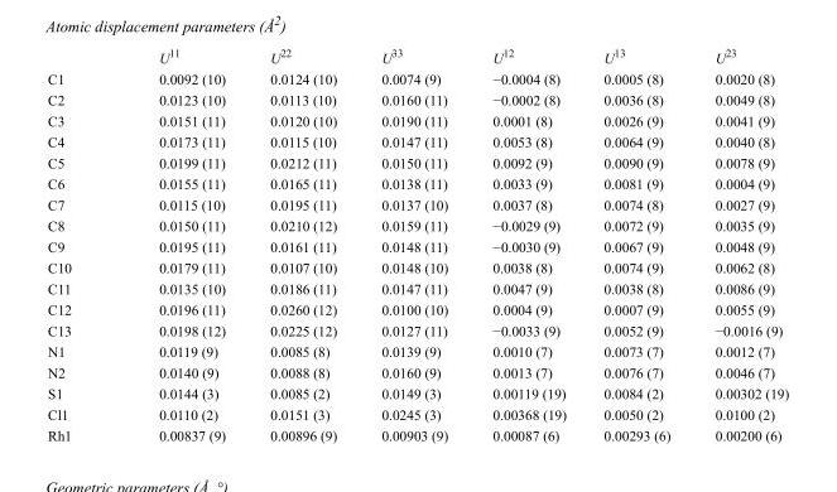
<table><thead><tr><td></td><td>U<sup>11</sup></td><td>U<sup>22</sup></td><td>U<sup>33</sup></td><td>U<sup>12</sup></td><td>U<sup>13</sup></td><td>U<sup>23</sup></td></tr></thead><tbody><tr><td>C1</td><td>0.0092 (10)</td><td>0.0124 (10)</td><td>0.0074 (9)</td><td>−0.0004 (8)</td><td>0.0005 (8)</td><td>0.0020 (8)</td></tr><tr><td>C2</td><td>0.0123 (10)</td><td>0.0113 (10)</td><td>0.0160 (11)</td><td>−0.0002 (8)</td><td>0.0036 (8)</td><td>0.0049 (8)</td></tr><tr><td>C3</td><td>0.0151 (11)</td><td>0.0120 (10)</td><td>0.0190 (11)</td><td>0.0001 (8)</td><td>0.0026 (9)</td><td>0.0041 (9)</td></tr><tr><td>C4</td><td>0.0173 (11)</td><td>0.0115 (10)</td><td>0.0147 (11)</td><td>0.0053 (8)</td><td>0.0064 (9)</td><td>0.0040 (8)</td></tr><tr><td>C5</td><td>0.0199 (11)</td><td>0.0212 (11)</td><td>0.0150 (11)</td><td>0.0092 (9)</td><td>0.0090 (9)</td><td>0.0078 (9)</td></tr><tr><td>C6</td><td>0.0155 (11)</td><td>0.0165 (11)</td><td>0.0138 (11)</td><td>0.0033 (9)</td><td>0.0081 (9)</td><td>0.0004 (9)</td></tr><tr><td>C7</td><td>0.0115 (10)</td><td>0.0195 (11)</td><td>0.0137 (10)</td><td>0.0037 (8)</td><td>0.0074 (8)</td><td>0.0027 (9)</td></tr><tr><td>C8</td><td>0.0150 (11)</td><td>0.0210 (12)</td><td>0.0159 (11)</td><td>−0.0029 (9)</td><td>0.0072 (9)</td><td>0.0035 (9)</td></tr><tr><td>C9</td><td>0.0195 (11)</td><td>0.0161 (11)</td><td>0.0148 (11)</td><td>−0.0030 (9)</td><td>0.0067 (9)</td><td>0.0048 (9)</td></tr><tr><td>C10</td><td>0.0179 (11)</td><td>0.0107 (10)</td><td>0.0148 (10)</td><td>0.0038 (8)</td><td>0.0074 (9)</td><td>0.0062 (8)</td></tr><tr><td>C11</td><td>0.0135 (10)</td><td>0.0186 (11)</td><td>0.0147 (11)</td><td>0.0047 (9)</td><td>0.0038 (8)</td><td>0.0086 (9)</td></tr><tr><td>C12</td><td>0.0196 (11)</td><td>0.0260 (12)</td><td>0.0100 (10)</td><td>0.0004 (9)</td><td>0.0007 (9)</td><td>0.0055 (9)</td></tr><tr><td>C13</td><td>0.0198 (12)</td><td>0.0225 (12)</td><td>0.0127 (11)</td><td>−0.0033 (9)</td><td>0.0052 (9)</td><td>−0.0016 (9)</td></tr><tr><td>N1</td><td>0.0119 (9)</td><td>0.0085 (8)</td><td>0.0139 (9)</td><td>0.0010 (7)</td><td>0.0073 (7)</td><td>0.0012 (7)</td></tr><tr><td>N2</td><td>0.0140 (9)</td><td>0.0088 (8)</td><td>0.0160 (9)</td><td>0.0013 (7)</td><td>0.0076 (7)</td><td>0.0046 (7)</td></tr><tr><td>S1</td><td>0.0144 (3)</td><td>0.0085 (2)</td><td>0.0149 (3)</td><td>0.00119 (19)</td><td>0.0084 (2)</td><td>0.00302 (19)</td></tr><tr><td>Cl1</td><td>0.0110 (2)</td><td>0.0151 (3)</td><td>0.0245 (3)</td><td>0.00368 (19)</td><td>0.0050 (2)</td><td>0.0100 (2)</td></tr><tr><td>Rh1</td><td>0.00837 (9)</td><td>0.00896 (9)</td><td>0.00903 (9)</td><td>0.00087 (6)</td><td>0.00293 (6)</td><td>0.00200 (6)</td></tr></tbody></table>